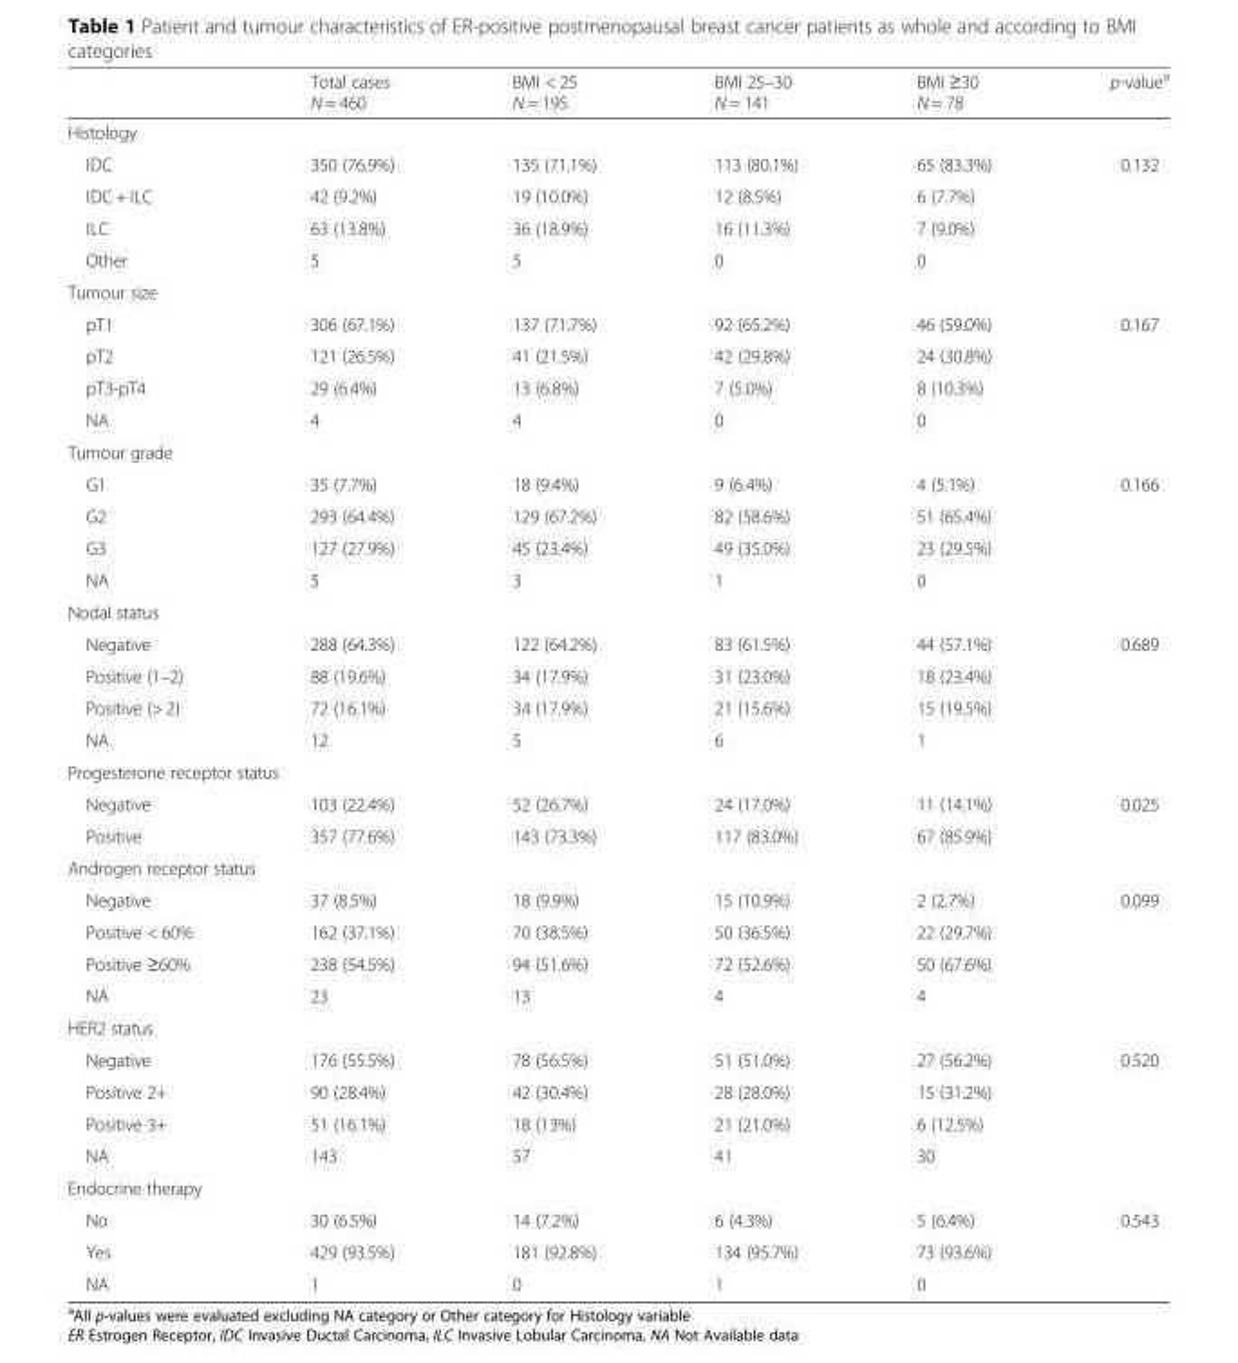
<table><thead><tr><td></td><td>Total cases N = 460</td><td>BMI &lt; 25 N = 195</td><td>BMI 25–30 N = 141</td><td>BMI ≥30 N = 78</td><td>p-value<sup>a</sup></td></tr></thead><tbody><tr><td colspan="6">Histology</td></tr><tr><td>IDC</td><td>350 (76.9%)</td><td>135 (71.1%)</td><td>113 (80.1%)</td><td>65 (83.3%)</td><td rowspan="4">0.132</td></tr><tr><td>IDC + ILC</td><td>42 (9.2%)</td><td>19 (10.0%)</td><td>12 (8.5%)</td><td>6 (7.7%)</td></tr><tr><td>ILC</td><td>63 (13.8%)</td><td>36 (18.9%)</td><td>16 (11.3%)</td><td>7 (9.0%)</td></tr><tr><td>Other</td><td>5</td><td>5</td><td>0</td><td>0</td></tr><tr><td colspan="6">Tumour size</td></tr><tr><td>pT1</td><td>306 (67.1%)</td><td>137 (71.7%)</td><td>92 (65.2%)</td><td>46 (59.0%)</td><td rowspan="4">0.167</td></tr><tr><td>pT2</td><td>121 (26.5%)</td><td>41 (21.5%)</td><td>42 (29.8%)</td><td>24 (30.8%)</td></tr><tr><td>pT3-pT4</td><td>29 (6.4%)</td><td>13 (6.8%)</td><td>7 (5.0%)</td><td>8 (10.3%)</td></tr><tr><td>NA</td><td>4</td><td>4</td><td>0</td><td>0</td></tr><tr><td colspan="6">Tumour grade</td></tr><tr><td>G1</td><td>35 (7.7%)</td><td>18 (9.4%)</td><td>9 (6.4%)</td><td>4 (5.1%)</td><td rowspan="4">0.166</td></tr><tr><td>G2</td><td>293 (64.4%)</td><td>129 (67.2%)</td><td>82 (58.6%)</td><td>51 (65.4%)</td></tr><tr><td>G3</td><td>127 (27.9%)</td><td>45 (23.4%)</td><td>49 (35.0%)</td><td>23 (29.5%)</td></tr><tr><td>NA</td><td>5</td><td>3</td><td>1</td><td>0</td></tr><tr><td colspan="6">Nodal status</td></tr><tr><td>Negative</td><td>288 (64.3%)</td><td>122 (64.2%)</td><td>83 (61.5%)</td><td>44 (57.1%)</td><td rowspan="4">0.689</td></tr><tr><td>Positive (1–2)</td><td>88 (19.6%)</td><td>34 (17.9%)</td><td>31 (23.0%)</td><td>18 (23.4%)</td></tr><tr><td>Positive (&gt; 2)</td><td>72 (16.1%)</td><td>34 (17.9%)</td><td>21 (15.6%)</td><td>15 (19.5%)</td></tr><tr><td>NA</td><td>12</td><td>5</td><td>6</td><td>1</td></tr><tr><td colspan="6">Progesterone receptor status</td></tr><tr><td>Negative</td><td>103 (22.4%)</td><td>52 (26.7%)</td><td>24 (17.0%)</td><td>11 (14.1%)</td><td rowspan="2">0.025</td></tr><tr><td>Positive</td><td>357 (77.6%)</td><td>143 (73.3%)</td><td>117 (83.0%)</td><td>67 (85.9%)</td></tr><tr><td colspan="6">Androgen receptor status</td></tr><tr><td>Negative</td><td>37 (8.5%)</td><td>18 (9.9%)</td><td>15 (10.9%)</td><td>2 (2.7%)</td><td rowspan="4">0.099</td></tr><tr><td>Positive &lt; 60%</td><td>162 (37.1%)</td><td>70 (38.5%)</td><td>50 (36.5%)</td><td>22 (29.7%)</td></tr><tr><td>Positive ≥60%</td><td>238 (54.5%)</td><td>94 (51.6%)</td><td>72 (52.6%)</td><td>50 (67.6%)</td></tr><tr><td>NA</td><td>23</td><td>13</td><td>4</td><td>4</td></tr><tr><td colspan="6">HER2 status</td></tr><tr><td>Negative</td><td>176 (55.5%)</td><td>78 (56.5%)</td><td>51 (51.0%)</td><td>27 (56.2%)</td><td rowspan="4">0.520</td></tr><tr><td>Positive 2+</td><td>90 (28.4%)</td><td>42 (30.4%)</td><td>28 (28.0%)</td><td>15 (31.2%)</td></tr><tr><td>Positive 3+</td><td>51 (16.1%)</td><td>18 (13%)</td><td>21 (21.0%)</td><td>6 (12.5%)</td></tr><tr><td>NA</td><td>143</td><td>57</td><td>41</td><td>30</td></tr><tr><td colspan="6">Endocrine therapy</td></tr><tr><td>No</td><td>30 (6.5%)</td><td>14 (7.2%)</td><td>6 (4.3%)</td><td>5 (6.4%)</td><td rowspan="3">0.543</td></tr><tr><td>Yes</td><td>429 (93.5%)</td><td>181 (92.8%)</td><td>134 (95.7%)</td><td>73 (93.6%)</td></tr><tr><td>NA</td><td>1</td><td>0</td><td>1</td><td>0</td></tr></tbody></table>